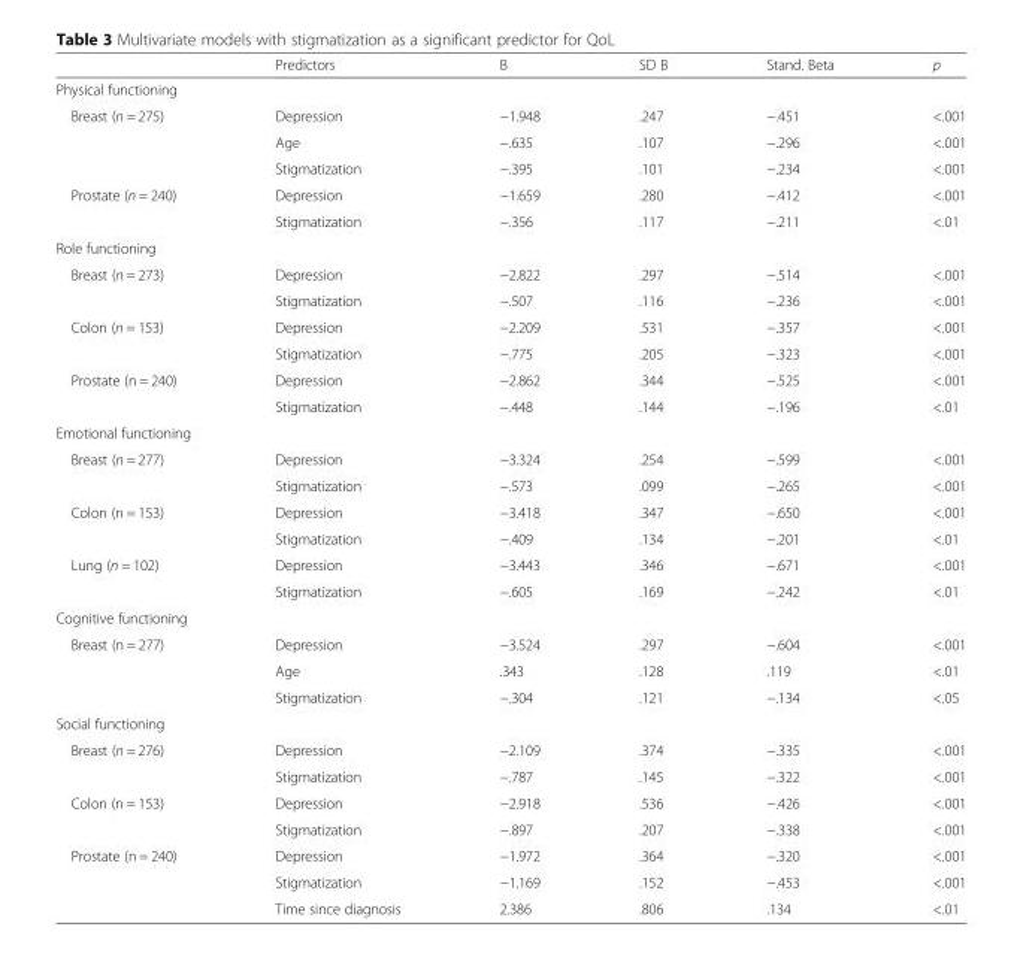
<table><thead><tr><td></td><td>Predictors</td><td>B</td><td>SD B</td><td>Stand. Beta</td><td>p</td></tr></thead><tbody><tr><td colspan="6">Physical functioning</td></tr><tr><td rowspan="3">Breast (n = 275)</td><td>Depression</td><td>−1.948</td><td>.247</td><td>−.451</td><td>&lt;.001</td></tr><tr><td>Age</td><td>−.635</td><td>.107</td><td>−.296</td><td>&lt;.001</td></tr><tr><td>Stigmatization</td><td>−.395</td><td>.101</td><td>−.234</td><td>&lt;.001</td></tr><tr><td rowspan="2">Prostate (n = 240)</td><td>Depression</td><td>−1.659</td><td>.280</td><td>−.412</td><td>&lt;.001</td></tr><tr><td>Stigmatization</td><td>−.356</td><td>.117</td><td>−.211</td><td>&lt;.01</td></tr><tr><td colspan="6">Role functioning</td></tr><tr><td rowspan="2">Breast (n = 273)</td><td>Depression</td><td>−2.822</td><td>.297</td><td>−.514</td><td>&lt;.001</td></tr><tr><td>Stigmatization</td><td>−.507</td><td>.116</td><td>−.236</td><td>&lt;.001</td></tr><tr><td rowspan="2">Colon (n = 153)</td><td>Depression</td><td>−2.209</td><td>.531</td><td>−.357</td><td>&lt;.001</td></tr><tr><td>Stigmatization</td><td>−.775</td><td>.205</td><td>−.323</td><td>&lt;.001</td></tr><tr><td rowspan="2">Prostate (n = 240)</td><td>Depression</td><td>−2.862</td><td>.344</td><td>−.525</td><td>&lt;.001</td></tr><tr><td>Stigmatization</td><td>−.448</td><td>.144</td><td>−.196</td><td>&lt;.01</td></tr><tr><td colspan="6">Emotional functioning</td></tr><tr><td rowspan="2">Breast (n = 277)</td><td>Depression</td><td>−3.324</td><td>.254</td><td>−.599</td><td>&lt;.001</td></tr><tr><td>Stigmatization</td><td>−.573</td><td>.099</td><td>−.265</td><td>&lt;.001</td></tr><tr><td rowspan="2">Colon (n = 153)</td><td>Depression</td><td>−3.418</td><td>.347</td><td>−.650</td><td>&lt;.001</td></tr><tr><td>Stigmatization</td><td>−.409</td><td>.134</td><td>−.201</td><td>&lt;.01</td></tr><tr><td rowspan="2">Lung (n = 102)</td><td>Depression</td><td>−3.443</td><td>.346</td><td>−.671</td><td>&lt;.001</td></tr><tr><td>Stigmatization</td><td>−.605</td><td>.169</td><td>−.242</td><td>&lt;.01</td></tr><tr><td colspan="6">Cognitive functioning</td></tr><tr><td rowspan="3">Breast (n = 277)</td><td>Depression</td><td>−3.524</td><td>.297</td><td>−.604</td><td>&lt;.001</td></tr><tr><td>Age</td><td>.343</td><td>.128</td><td>.119</td><td>&lt;.01</td></tr><tr><td>Stigmatization</td><td>−.304</td><td>.121</td><td>−.134</td><td>&lt;.05</td></tr><tr><td colspan="6">Social functioning</td></tr><tr><td rowspan="2">Breast (n = 276)</td><td>Depression</td><td>−2.109</td><td>.374</td><td>−.335</td><td>&lt;.001</td></tr><tr><td>Stigmatization</td><td>−.787</td><td>.145</td><td>−.322</td><td>&lt;.001</td></tr><tr><td rowspan="2">Colon (n = 153)</td><td>Depression</td><td>−2.918</td><td>.536</td><td>−.426</td><td>&lt;.001</td></tr><tr><td>Stigmatization</td><td>−.897</td><td>.207</td><td>−.338</td><td>&lt;.001</td></tr><tr><td rowspan="3">Prostate (n = 240)</td><td>Depression</td><td>−1.972</td><td>.364</td><td>−.320</td><td>&lt;.001</td></tr><tr><td>Stigmatization</td><td>−1.169</td><td>.152</td><td>−.453</td><td>&lt;.001</td></tr><tr><td>Time since diagnosis</td><td>2.386</td><td>.806</td><td>.134</td><td>&lt;.01</td></tr></tbody></table>